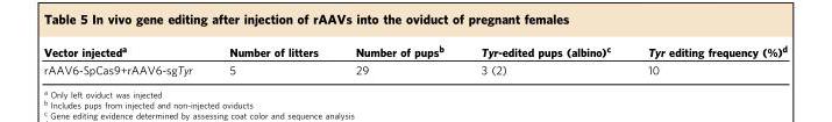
<table><thead><tr><td>Vector injected<sup>a</sup></td><td>Number of litters</td><td>Number of pups<sup>b</sup></td><td>Tyr-edited pups (albino)<sup>c</sup></td><td>Tyr editing frequency (%)<sup>d</sup></td></tr></thead><tbody><tr><td>rAAV6-SpCas9+rAAV6-sgTyr</td><td>5</td><td>29</td><td>3 (2)</td><td>10</td></tr></tbody></table>